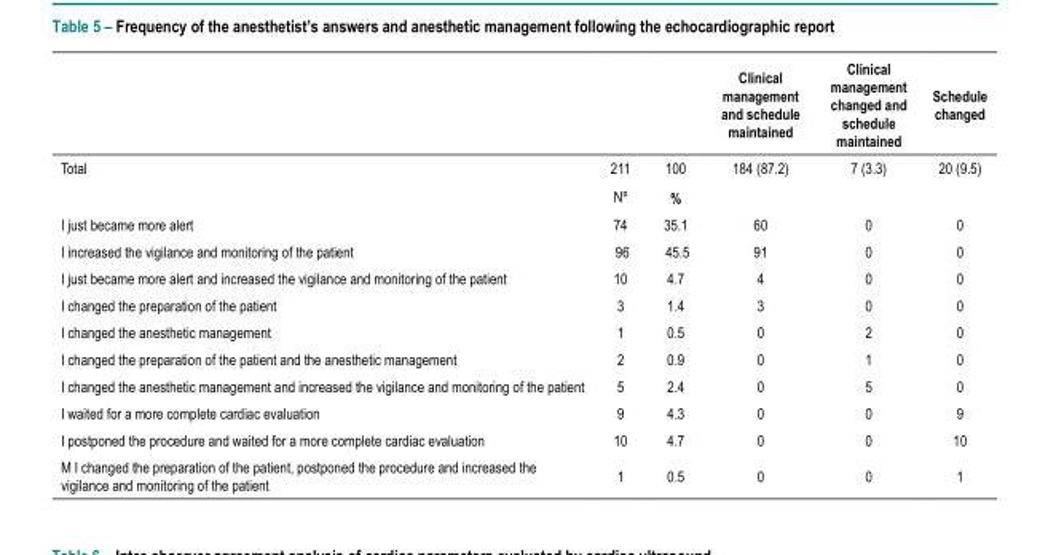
<table><thead><tr><td></td><td></td><td></td><td>Clinical management and schedule maintained</td><td>Clinical management changed and schedule maintained</td><td>Schedule changed</td></tr></thead><tbody><tr><td rowspan="2">Total</td><td>211</td><td>100</td><td>184 (87.2)</td><td>7 (3.3)</td><td>20 (9.5)</td></tr><tr><td>Nº</td><td>%</td><td></td><td></td><td></td></tr><tr><td>I just became more alert</td><td>74</td><td>35.1</td><td>60</td><td>0</td><td>0</td></tr><tr><td>I increased the vigilance and monitoring of the patient</td><td>96</td><td>45.5</td><td>91</td><td>0</td><td>0</td></tr><tr><td>I just became more alert and increased the vigilance and monitoring of the patient</td><td>10</td><td>4.7</td><td>4</td><td>0</td><td>0</td></tr><tr><td>I changed the preparation of the patient</td><td>3</td><td>1.4</td><td>3</td><td>0</td><td>0</td></tr><tr><td>I changed the anesthetic management</td><td>1</td><td>0.5</td><td>0</td><td>2</td><td>0</td></tr><tr><td>I changed the preparation of the patient and the anesthetic management</td><td>2</td><td>0.9</td><td>0</td><td>1</td><td>0</td></tr><tr><td>I changed the anesthetic management and increased the vigilance and monitoring of the patient</td><td>5</td><td>2.4</td><td>0</td><td>5</td><td>0</td></tr><tr><td>I waited for a more complete cardiac evaluation</td><td>9</td><td>4.3</td><td>0</td><td>0</td><td>9</td></tr><tr><td>I postponed the procedure and waited for a more complete cardiac evaluation</td><td>10</td><td>4.7</td><td>0</td><td>0</td><td>10</td></tr><tr><td>M I changed the preparation of the patient, postponed the procedure and increased the vigilance and monitoring of the patient</td><td>1</td><td>0.5</td><td>0</td><td>0</td><td>1</td></tr></tbody></table>